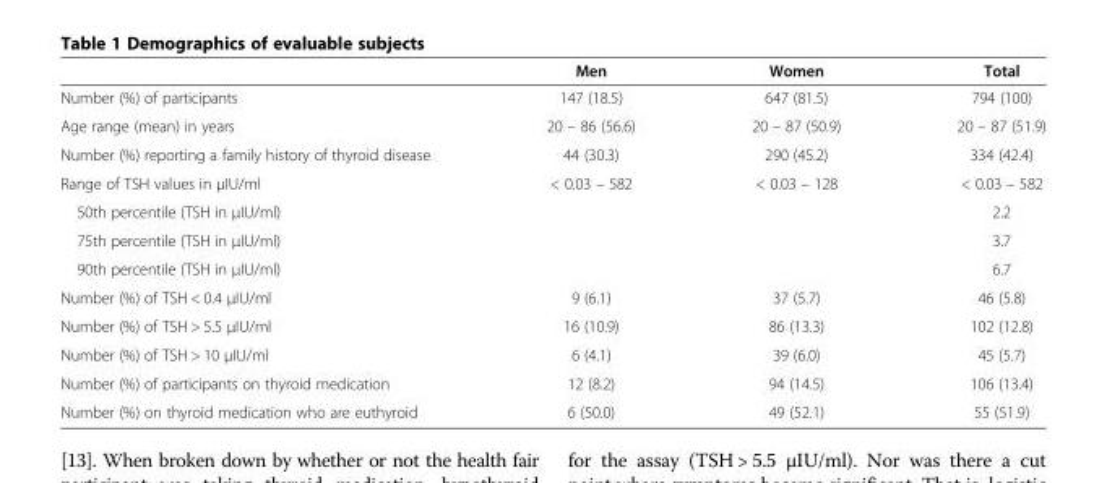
<table><thead><tr><td></td><td>Men</td><td>Women</td><td>Total</td></tr></thead><tbody><tr><td>Number (%) of participants</td><td>147 (18.5)</td><td>647 (81.5)</td><td>794 (100)</td></tr><tr><td>Age range (mean) in years</td><td>20 – 86 (56.6)</td><td>20 – 87 (50.9)</td><td>20 – 87 (51.9)</td></tr><tr><td>Number (%) reporting a family history of thyroid disease</td><td>44 (30.3)</td><td>290 (45.2)</td><td>334 (42.4)</td></tr><tr><td>Range of TSH values in μIU/ml</td><td>&lt; 0.03 – 582</td><td>&lt; 0.03 – 128</td><td>&lt; 0.03 – 582</td></tr><tr><td>50th percentile (TSH in μIU/ml)</td><td></td><td></td><td>2.2</td></tr><tr><td>75th percentile (TSH in μIU/ml)</td><td></td><td></td><td>3.7</td></tr><tr><td>90th percentile (TSH in μIU/ml)</td><td></td><td></td><td>6.7</td></tr><tr><td>Number (%) of TSH &lt; 0.4 μIU/ml</td><td>9 (6.1)</td><td>37 (5.7)</td><td>46 (5.8)</td></tr><tr><td>Number (%) of TSH &gt; 5.5 μIU/ml</td><td>16 (10.9)</td><td>86 (13.3)</td><td>102 (12.8)</td></tr><tr><td>Number (%) of TSH &gt; 10 μIU/ml</td><td>6 (4.1)</td><td>39 (6.0)</td><td>45 (5.7)</td></tr><tr><td>Number (%) of participants on thyroid medication</td><td>12 (8.2)</td><td>94 (14.5)</td><td>106 (13.4)</td></tr><tr><td>Number (%) on thyroid medication who are euthyroid</td><td>6 (50.0)</td><td>49 (52.1)</td><td>55 (51.9)</td></tr></tbody></table>